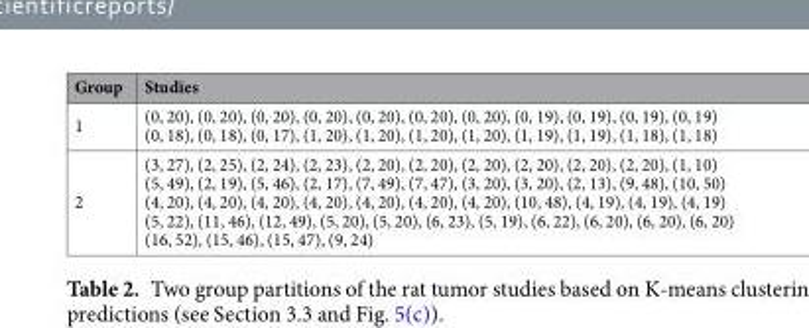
<table><thead><tr><td>Group</td><td>Studies</td></tr></thead><tbody><tr><td>1</td><td>(0, 20), (0, 20), (0, 20), (0, 20), (0, 20), (0, 20), (0, 20), (0, 19), (0, 19), (0, 19), (0, 19) (0, 18), (0, 18), (0, 17), (1, 20), (1, 20), (1, 20), (1, 20), (1, 19), (1, 19), (1, 18), (1, 18)</td></tr><tr><td>2</td><td>(3, 27), (2, 25), (2, 24), (2, 23), (2, 20), (2, 20), (2, 20), (2, 20), (2, 20), (2, 20), (1, 10) (5, 49), (2, 19), (5, 46), (2, 17), (7, 49), (7, 47), (3, 20), (3, 20), (2, 13), (9, 48), (10, 50) (4, 20), (4, 20), (4, 20), (4, 20), (4, 20), (4, 20), (4, 20), (10, 48), (4, 19), (4, 19), (4, 19) (5, 22), (11, 46), (12, 49), (5, 20), (5, 20), (6, 23), (5, 19), (6, 22), (6, 20), (6, 20), (6, 20) (16, 52), (15, 46), (15, 47), (9, 24)</td></tr></tbody></table>